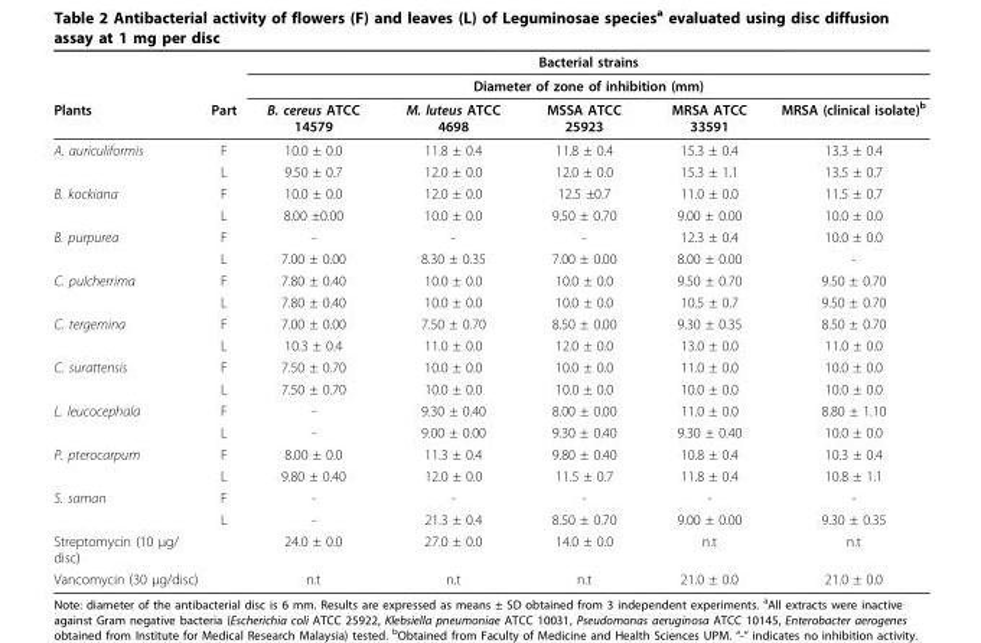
<table><thead><tr><td rowspan="3">Plants</td><td rowspan="3">Part</td><td rowspan="2" colspan="5">Bacterial strains Diameter of zone of inhibition (mm)</td></tr><tr></tr><tr><td>B. cereus ATCC 14579</td><td>M. luteus ATCC 4698</td><td>MSSA ATCC 25923</td><td>MRSA ATCC 33591</td><td>MRSA (clinical isolate)<sup>b</sup></td></tr></thead><tbody><tr><td rowspan="2">A. auriculiformis</td><td>F</td><td>10.0 ± 0.0</td><td>11.8 ± 0.4</td><td>11.8 ± 0.4</td><td>15.3 ± 0.4</td><td>13.3 ± 0.4</td></tr><tr><td>L</td><td>9.50 ± 0.7</td><td>12.0 ± 0.0</td><td>12.0 ± 0.0</td><td>15.3 ± 1.1</td><td>13.5 ± 0.7</td></tr><tr><td rowspan="2">B. kockiana</td><td>F</td><td>10.0 ± 0.0</td><td>12.0 ± 0.0</td><td>12.5 ±0.7</td><td>11.0 ± 0.0</td><td>11.5 ± 0.7</td></tr><tr><td>L</td><td>8.00 ±0.00</td><td>10.0 ± 0.0</td><td>9.50 ± 0.70</td><td>9.00 ± 0.00</td><td>10.0 ± 0.0</td></tr><tr><td rowspan="2">B. purpurea</td><td>F</td><td>-</td><td>-</td><td>-</td><td>12.3 ± 0.4</td><td>10.0 ± 0.0</td></tr><tr><td>L</td><td>7.00 ± 0.00</td><td>8.30 ± 0.35</td><td>7.00 ± 0.00</td><td>8.00 ± 0.00</td><td>-</td></tr><tr><td rowspan="2">C. pulcherrima</td><td>F</td><td>7.80 ± 0.40</td><td>10.0 ± 0.0</td><td>10.0 ± 0.0</td><td>9.50 ± 0.70</td><td>9.50 ± 0.70</td></tr><tr><td>L</td><td>7.80 ± 0.40</td><td>10.0 ± 0.0</td><td>10.0 ± 0.0</td><td>10.5 ± 0.7</td><td>9.50 ± 0.70</td></tr><tr><td rowspan="2">C. tergemina</td><td>F</td><td>7.00 ± 0.00</td><td>7.50 ± 0.70</td><td>8.50 ± 0.00</td><td>9.30 ± 0.35</td><td>8.50 ± 0.70</td></tr><tr><td>L</td><td>10.3 ± 0.4</td><td>11.0 ± 0.0</td><td>12.0 ± 0.0</td><td>13.0 ± 0.0</td><td>11.0 ± 0.0</td></tr><tr><td rowspan="2">C. surattensis</td><td>F</td><td>7.50 ± 0.70</td><td>10.0 ± 0.0</td><td>10.0 ± 0.0</td><td>11.0 ± 0.0</td><td>10.0 ± 0.0</td></tr><tr><td>L</td><td>7.50 ± 0.70</td><td>10.0 ± 0.0</td><td>10.0 ± 0.0</td><td>10.0 ± 0.0</td><td>10.0 ± 0.0</td></tr><tr><td rowspan="2">L. leucocephala</td><td>F</td><td>-</td><td>9.30 ± 0.40</td><td>8.00 ± 0.00</td><td>11.0 ± 0.0</td><td>8.80 ± 1.10</td></tr><tr><td>L</td><td>-</td><td>9.00 ± 0.00</td><td>9.30 ± 0.40</td><td>9.30 ± 0.40</td><td>10.0 ± 0.0</td></tr><tr><td rowspan="2">P. pterocarpum</td><td>F</td><td>8.00 ± 0.0</td><td>11.3 ± 0.4</td><td>9.80 ± 0.40</td><td>10.8 ± 0.4</td><td>10.3 ± 0.4</td></tr><tr><td>L</td><td>9.80 ± 0.40</td><td>12.0 ± 0.0</td><td>11.5 ± 0.7</td><td>11.8 ± 0.4</td><td>10.8 ± 1.1</td></tr><tr><td rowspan="2">S. saman</td><td>F</td><td>-</td><td>-</td><td>-</td><td>-</td><td>-</td></tr><tr><td>L</td><td>-</td><td>21.3 ± 0.4</td><td>8.50 ± 0.70</td><td>9.00 ± 0.00</td><td>9.30 ± 0.35</td></tr><tr><td>Streptomycin (10 μg/ disc)</td><td></td><td>24.0 ± 0.0</td><td>27.0 ± 0.0</td><td>14.0 ± 0.0</td><td>n.t</td><td>n.t</td></tr><tr><td>Vancomycin (30 μg/disc)</td><td></td><td>n.t</td><td>n.t</td><td>n.t</td><td>21.0 ± 0.0</td><td>21.0 ± 0.0</td></tr></tbody></table>